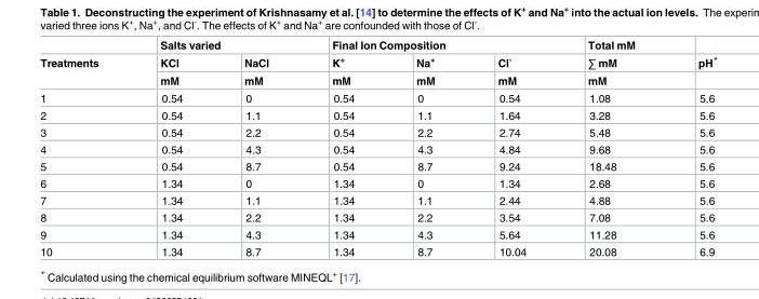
<table><thead><tr><td rowspan="3">Treatments</td><td colspan="2">Salts varied</td><td colspan="3">Final Ion Composition</td><td rowspan="3">Total mM ∑ mM mM</td><td rowspan="3">pH*</td></tr><tr><td rowspan="2">KCl mM</td><td rowspan="2">NaCl mM</td><td rowspan="2">K<sup>+</sup> mM</td><td rowspan="2">Na<sup>+</sup> mM</td><td rowspan="2">Cl<sup>-</sup> mM</td></tr><tr></tr></thead><tbody><tr><td>1</td><td>0.54</td><td>0</td><td>0.54</td><td>0</td><td>0.54</td><td>1.08</td><td>5.6</td></tr><tr><td>2</td><td>0.54</td><td>1.1</td><td>0.54</td><td>1.1</td><td>1.64</td><td>3.28</td><td>5.6</td></tr><tr><td>3</td><td>0.54</td><td>2.2</td><td>0.54</td><td>2.2</td><td>2.74</td><td>5.48</td><td>5.6</td></tr><tr><td>4</td><td>0.54</td><td>4.3</td><td>0.54</td><td>4.3</td><td>4.84</td><td>9.68</td><td>5.6</td></tr><tr><td>5</td><td>0.54</td><td>8.7</td><td>0.54</td><td>8.7</td><td>9.24</td><td>18.48</td><td>5.6</td></tr><tr><td>6</td><td>1.34</td><td>0</td><td>1.34</td><td>0</td><td>1.34</td><td>2.68</td><td>5.6</td></tr><tr><td>7</td><td>1.34</td><td>1.1</td><td>1.34</td><td>1.1</td><td>2.44</td><td>4.88</td><td>5.6</td></tr><tr><td>8</td><td>1.34</td><td>2.2</td><td>1.34</td><td>2.2</td><td>3.54</td><td>7.08</td><td>5.6</td></tr><tr><td>9</td><td>1.34</td><td>4.3</td><td>1.34</td><td>4.3</td><td>5.64</td><td>11.28</td><td>5.6</td></tr><tr><td>10</td><td>1.34</td><td>8.7</td><td>1.34</td><td>8.7</td><td>10.04</td><td>20.08</td><td>6.9</td></tr></tbody></table>